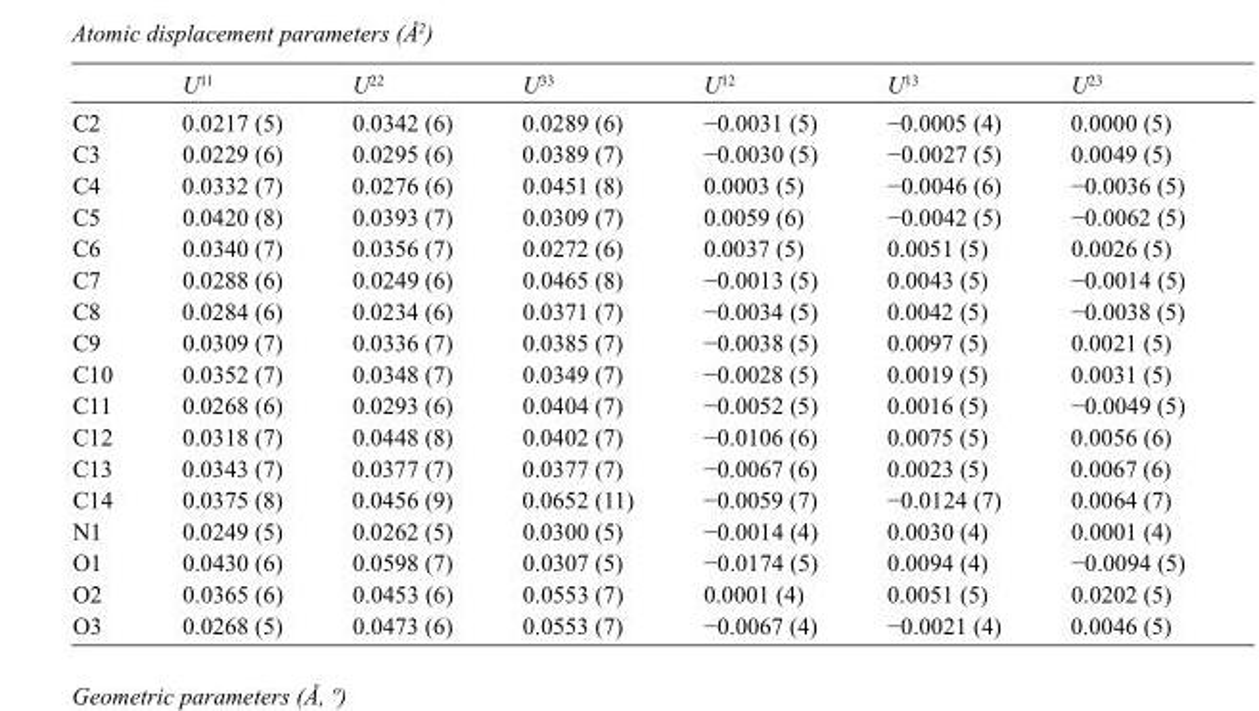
<table><thead><tr><td></td><td>U<sup>11</sup></td><td>U<sup>22</sup></td><td>U<sup>33</sup></td><td>U<sup>12</sup></td><td>U<sup>13</sup></td><td>U<sup>23</sup></td></tr></thead><tbody><tr><td>C2</td><td>0.0217 (5)</td><td>0.0342 (6)</td><td>0.0289 (6)</td><td>−0.0031 (5)</td><td>−0.0005 (4)</td><td>0.0000 (5)</td></tr><tr><td>C3</td><td>0.0229 (6)</td><td>0.0295 (6)</td><td>0.0389 (7)</td><td>−0.0030 (5)</td><td>−0.0027 (5)</td><td>0.0049 (5)</td></tr><tr><td>C4</td><td>0.0332 (7)</td><td>0.0276 (6)</td><td>0.0451 (8)</td><td>0.0003 (5)</td><td>−0.0046 (6)</td><td>−0.0036 (5)</td></tr><tr><td>C5</td><td>0.0420 (8)</td><td>0.0393 (7)</td><td>0.0309 (7)</td><td>0.0059 (6)</td><td>−0.0042 (5)</td><td>−0.0062 (5)</td></tr><tr><td>C6</td><td>0.0340 (7)</td><td>0.0356 (7)</td><td>0.0272 (6)</td><td>0.0037 (5)</td><td>0.0051 (5)</td><td>0.0026 (5)</td></tr><tr><td>C7</td><td>0.0288 (6)</td><td>0.0249 (6)</td><td>0.0465 (8)</td><td>−0.0013 (5)</td><td>0.0043 (5)</td><td>−0.0014 (5)</td></tr><tr><td>C8</td><td>0.0284 (6)</td><td>0.0234 (6)</td><td>0.0371 (7)</td><td>−0.0034 (5)</td><td>0.0042 (5)</td><td>−0.0038 (5)</td></tr><tr><td>C9</td><td>0.0309 (7)</td><td>0.0336 (7)</td><td>0.0385 (7)</td><td>−0.0038 (5)</td><td>0.0097 (5)</td><td>0.0021 (5)</td></tr><tr><td>C10</td><td>0.0352 (7)</td><td>0.0348 (7)</td><td>0.0349 (7)</td><td>−0.0028 (5)</td><td>0.0019 (5)</td><td>0.0031 (5)</td></tr><tr><td>C11</td><td>0.0268 (6)</td><td>0.0293 (6)</td><td>0.0404 (7)</td><td>−0.0052 (5)</td><td>0.0016 (5)</td><td>−0.0049 (5)</td></tr><tr><td>C12</td><td>0.0318 (7)</td><td>0.0448 (8)</td><td>0.0402 (7)</td><td>−0.0106 (6)</td><td>0.0075 (5)</td><td>0.0056 (6)</td></tr><tr><td>C13</td><td>0.0343 (7)</td><td>0.0377 (7)</td><td>0.0377 (7)</td><td>−0.0067 (6)</td><td>0.0023 (5)</td><td>0.0067 (6)</td></tr><tr><td>C14</td><td>0.0375 (8)</td><td>0.0456 (9)</td><td>0.0652 (11)</td><td>−0.0059 (7)</td><td>−0.0124 (7)</td><td>0.0064 (7)</td></tr><tr><td>N1</td><td>0.0249 (5)</td><td>0.0262 (5)</td><td>0.0300 (5)</td><td>−0.0014 (4)</td><td>0.0030 (4)</td><td>0.0001 (4)</td></tr><tr><td>O1</td><td>0.0430 (6)</td><td>0.0598 (7)</td><td>0.0307 (5)</td><td>−0.0174 (5)</td><td>0.0094 (4)</td><td>−0.0094 (5)</td></tr><tr><td>O2</td><td>0.0365 (6)</td><td>0.0453 (6)</td><td>0.0553 (7)</td><td>0.0001 (4)</td><td>0.0051 (5)</td><td>0.0202 (5)</td></tr><tr><td>O3</td><td>0.0268 (5)</td><td>0.0473 (6)</td><td>0.0553 (7)</td><td>−0.0067 (4)</td><td>−0.0021 (4)</td><td>0.0046 (5)</td></tr></tbody></table>